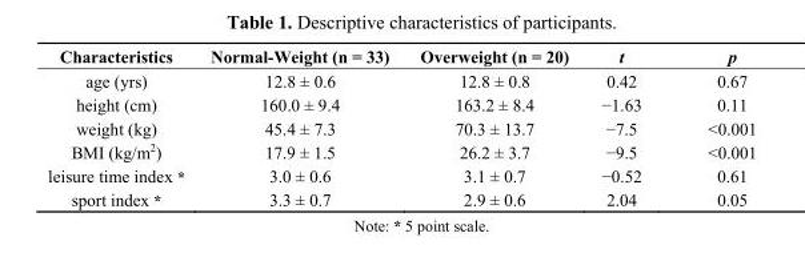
<table><thead><tr><td>Characteristics</td><td>Normal-Weight (n = 33)</td><td>Overweight (n = 20)</td><td>t</td><td>p</td></tr></thead><tbody><tr><td>age (yrs)</td><td>12.8 ± 0.6</td><td>12.8 ± 0.8</td><td>0.42</td><td>0.67</td></tr><tr><td>height (cm)</td><td>160.0 ± 9.4</td><td>163.2 ± 8.4</td><td>−1.63</td><td>0.11</td></tr><tr><td>weight (kg)</td><td>45.4 ± 7.3</td><td>70.3 ± 13.7</td><td>−7.5</td><td>&lt;0.001</td></tr><tr><td>BMI (kg/m<sup>2</sup>)</td><td>17.9 ± 1.5</td><td>26.2 ± 3.7</td><td>−9.5</td><td>&lt;0.001</td></tr><tr><td>leisure time index *</td><td>3.0 ± 0.6</td><td>3.1 ± 0.7</td><td>−0.52</td><td>0.61</td></tr><tr><td>sport index *</td><td>3.3 ± 0.7</td><td>2.9 ± 0.6</td><td>2.04</td><td>0.05</td></tr></tbody></table>